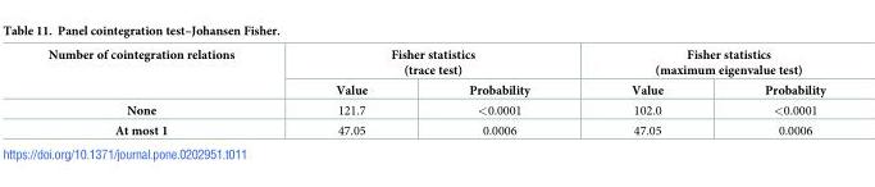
<table><thead><tr><td rowspan="2">Number of cointegration relations</td><td colspan="2">Fisher statistics (trace test)</td><td colspan="2">Fisher statistics (maximum eigenvalue test)</td></tr><tr><td>Value</td><td>Probability</td><td>Value</td><td>Probability</td></tr></thead><tbody><tr><td>None</td><td>121.7</td><td>&lt;0.0001</td><td>102.0</td><td>&lt;0.0001</td></tr><tr><td>At most 1</td><td>47.05</td><td>0.0006</td><td>47.05</td><td>0.0006</td></tr></tbody></table>